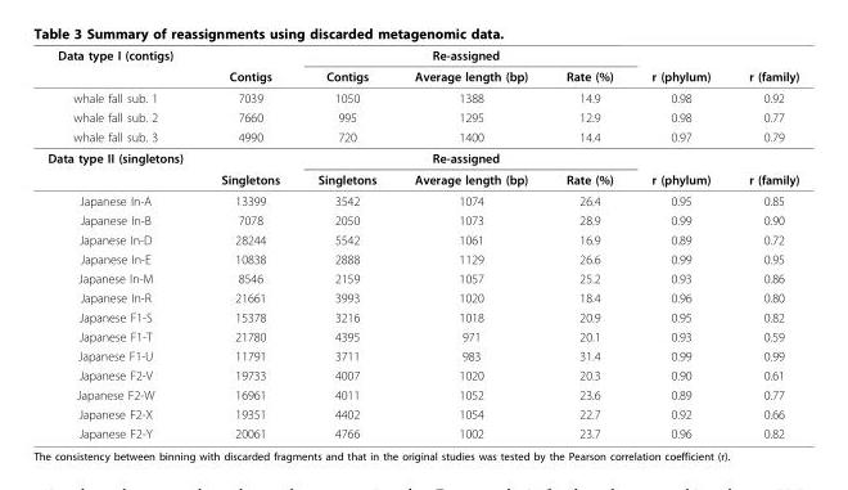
<table><thead><tr><td rowspan="2">Data type I (contigs)</td><td rowspan="2">Contigs</td><td colspan="3">Re-assigned</td><td rowspan="2">r (phylum)</td><td rowspan="2">r (family)</td></tr><tr><td>Contigs</td><td>Average length (bp)</td><td>Rate (%)</td></tr></thead><tbody><tr><td>whale fall sub. 1</td><td>7039</td><td>1050</td><td>1388</td><td>14.9</td><td>0.98</td><td>0.92</td></tr><tr><td>whale fall sub. 2</td><td>7660</td><td>995</td><td>1295</td><td>12.9</td><td>0.98</td><td>0.77</td></tr><tr><td>whale fall sub. 3</td><td>4990</td><td>720</td><td>1400</td><td>14.4</td><td>0.97</td><td>0.79</td></tr><tr><td rowspan="2">Data type II (singletons)</td><td></td><td colspan="3">Re-assigned</td><td></td><td></td></tr><tr><td>Singletons</td><td>Singletons</td><td>Average length (bp)</td><td>Rate (%)</td><td>r (phylum)</td><td>r (family)</td></tr><tr><td>Japanese In-A</td><td>13399</td><td>3542</td><td>1074</td><td>26.4</td><td>0.95</td><td>0.85</td></tr><tr><td>Japanese In-B</td><td>7078</td><td>2050</td><td>1073</td><td>28.9</td><td>0.99</td><td>0.90</td></tr><tr><td>Japanese In-D</td><td>28244</td><td>5542</td><td>1061</td><td>16.9</td><td>0.89</td><td>0.72</td></tr><tr><td>Japanese In-E</td><td>10838</td><td>2888</td><td>1129</td><td>26.6</td><td>0.99</td><td>0.95</td></tr><tr><td>Japanese In-M</td><td>8546</td><td>2159</td><td>1057</td><td>25.2</td><td>0.93</td><td>0.86</td></tr><tr><td>Japanese In-R</td><td>21661</td><td>3993</td><td>1020</td><td>18.4</td><td>0.96</td><td>0.80</td></tr><tr><td>Japanese F1-S</td><td>15378</td><td>3216</td><td>1018</td><td>20.9</td><td>0.95</td><td>0.82</td></tr><tr><td>Japanese F1-T</td><td>21780</td><td>4395</td><td>971</td><td>20.1</td><td>0.93</td><td>0.59</td></tr><tr><td>Japanese F1-U</td><td>11791</td><td>3711</td><td>983</td><td>31.4</td><td>0.99</td><td>0.99</td></tr><tr><td>Japanese F2-V</td><td>19733</td><td>4007</td><td>1020</td><td>20.3</td><td>0.90</td><td>0.61</td></tr><tr><td>Japanese F2-W</td><td>16961</td><td>4011</td><td>1052</td><td>23.6</td><td>0.89</td><td>0.77</td></tr><tr><td>Japanese F2-X</td><td>19351</td><td>4402</td><td>1054</td><td>22.7</td><td>0.92</td><td>0.66</td></tr><tr><td>Japanese F2-Y</td><td>20061</td><td>4766</td><td>1002</td><td>23.7</td><td>0.96</td><td>0.82</td></tr></tbody></table>